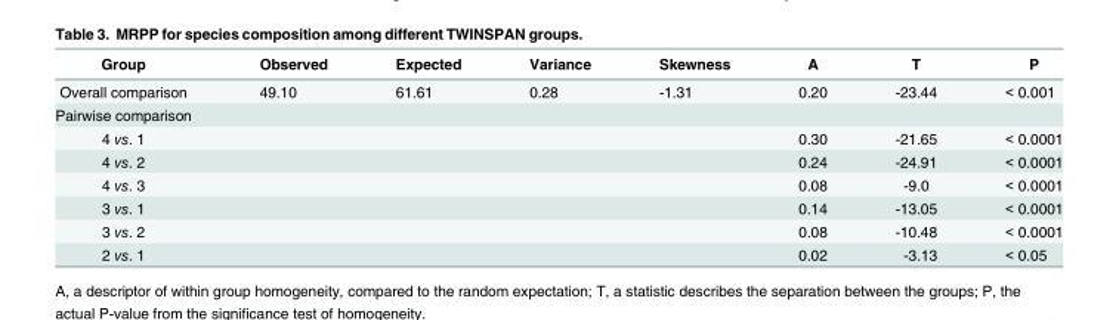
<table><thead><tr><td>Group</td><td>Observed</td><td>Expected</td><td>Variance</td><td>Skewness</td><td>A</td><td>T</td><td>P</td></tr></thead><tbody><tr><td>Overall comparison</td><td>49.10</td><td>61.61</td><td>0.28</td><td>-1.31</td><td>0.20</td><td>-23.44</td><td>&lt; 0.001</td></tr><tr><td colspan="8">Pairwise comparison</td></tr><tr><td>4 vs. 1</td><td></td><td></td><td></td><td></td><td>0.30</td><td>-21.65</td><td>&lt; 0.0001</td></tr><tr><td>4 vs. 2</td><td></td><td></td><td></td><td></td><td>0.24</td><td>-24.91</td><td>&lt; 0.0001</td></tr><tr><td>4 vs. 3</td><td></td><td></td><td></td><td></td><td>0.08</td><td>-9.0</td><td>&lt; 0.0001</td></tr><tr><td>3 vs. 1</td><td></td><td></td><td></td><td></td><td>0.14</td><td>-13.05</td><td>&lt; 0.0001</td></tr><tr><td>3 vs. 2</td><td></td><td></td><td></td><td></td><td>0.08</td><td>-10.48</td><td>&lt; 0.0001</td></tr><tr><td>2 vs. 1</td><td></td><td></td><td></td><td></td><td>0.02</td><td>-3.13</td><td>&lt; 0.05</td></tr></tbody></table>